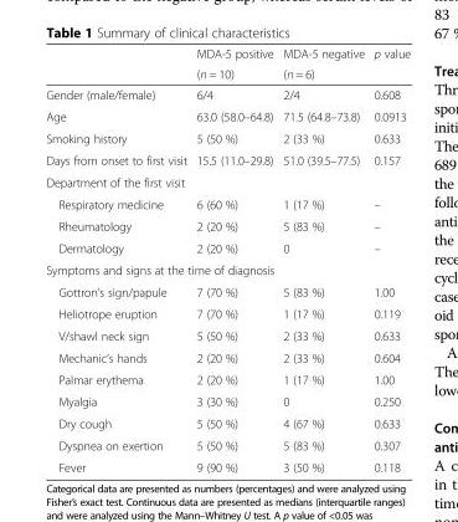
<table><thead><tr><td rowspan="2"></td><td rowspan="2">MDA-5 positive (n = 10)</td><td rowspan="2">MDA-5 negative (n = 6)</td><td rowspan="2">p value</td></tr><tr></tr></thead><tbody><tr><td>Gender (male/female)</td><td>6/4</td><td>2/4</td><td>0.608</td></tr><tr><td>Age</td><td>63.0 (58.0–64.8)</td><td>71.5 (64.8–73.8)</td><td>0.0913</td></tr><tr><td>Smoking history</td><td>5 (50 %)</td><td>2 (33 %)</td><td>0.633</td></tr><tr><td>Days from onset to first visit</td><td>15.5 (11.0–29.8)</td><td>51.0 (39.5–77.5)</td><td>0.157</td></tr><tr><td colspan="4">Department of the first visit</td></tr><tr><td>Respiratory medicine</td><td>6 (60 %)</td><td>1 (17 %)</td><td>–</td></tr><tr><td>Rheumatology</td><td>2 (20 %)</td><td>5 (83 %)</td><td>–</td></tr><tr><td>Dermatology</td><td>2 (20 %)</td><td>0</td><td>–</td></tr><tr><td colspan="4">Symptoms and signs at the time of diagnosis</td></tr><tr><td>Gottron’s sign/papule</td><td>7 (70 %)</td><td>5 (83 %)</td><td>1.00</td></tr><tr><td>Heliotrope eruption</td><td>7 (70 %)</td><td>1 (17 %)</td><td>0.119</td></tr><tr><td>V/shawl neck sign</td><td>5 (50 %)</td><td>2 (33 %)</td><td>0.633</td></tr><tr><td>Mechanic’s hands</td><td>2 (20 %)</td><td>2 (33 %)</td><td>0.604</td></tr><tr><td>Palmar erythema</td><td>2 (20 %)</td><td>1 (17 %)</td><td>1.00</td></tr><tr><td>Myalgia</td><td>3 (30 %)</td><td>0</td><td>0.250</td></tr><tr><td>Dry cough</td><td>5 (50 %)</td><td>4 (67 %)</td><td>0.633</td></tr><tr><td>Dyspnea on exertion</td><td>5 (50 %)</td><td>5 (83 %)</td><td>0.307</td></tr><tr><td>Fever</td><td>9 (90 %)</td><td>3 (50 %)</td><td>0.118</td></tr></tbody></table>